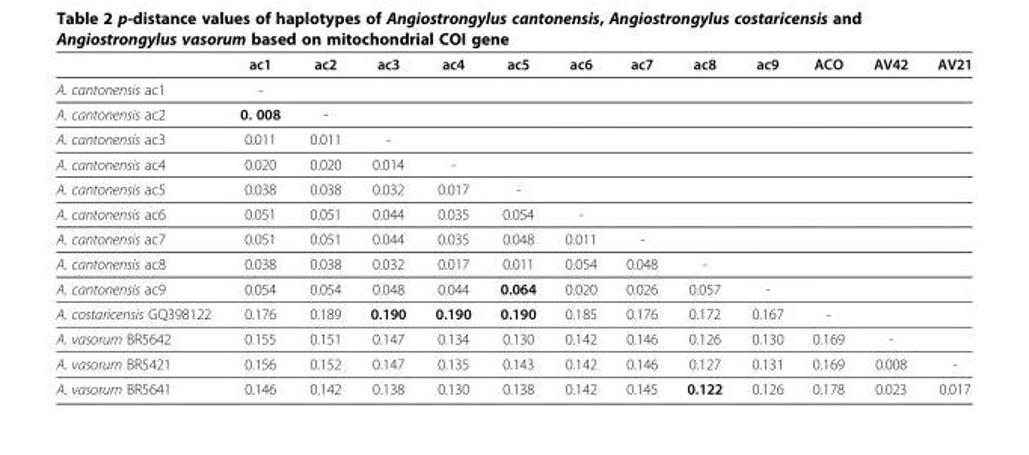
<table><thead><tr><td></td><td>ac1</td><td>ac2</td><td>ac3</td><td>ac4</td><td>ac5</td><td>ac6</td><td>ac7</td><td>ac8</td><td>ac9</td><td>ACO</td><td>AV42</td><td>AV21</td></tr></thead><tbody><tr><td>A. cantonensis ac1</td><td>-</td><td></td><td></td><td></td><td></td><td></td><td></td><td></td><td></td><td></td><td></td><td></td></tr><tr><td>A. cantonensis ac2</td><td>0. 008</td><td>-</td><td></td><td></td><td></td><td></td><td></td><td></td><td></td><td></td><td></td><td></td></tr><tr><td>A. cantonensis ac3</td><td>0.011</td><td>0.011</td><td>-</td><td></td><td></td><td></td><td></td><td></td><td></td><td></td><td></td><td></td></tr><tr><td>A. cantonensis ac4</td><td>0.020</td><td>0.020</td><td>0.014</td><td>-</td><td></td><td></td><td></td><td></td><td></td><td></td><td></td><td></td></tr><tr><td>A. cantonensis ac5</td><td>0.038</td><td>0.038</td><td>0.032</td><td>0.017</td><td>-</td><td></td><td></td><td></td><td></td><td></td><td></td><td></td></tr><tr><td>A. cantonensis ac6</td><td>0.051</td><td>0.051</td><td>0.044</td><td>0.035</td><td>0.054</td><td>-</td><td></td><td></td><td></td><td></td><td></td><td></td></tr><tr><td>A. cantonensis ac7</td><td>0.051</td><td>0.051</td><td>0.044</td><td>0.035</td><td>0.048</td><td>0.011</td><td>-</td><td></td><td></td><td></td><td></td><td></td></tr><tr><td>A. cantonensis ac8</td><td>0.038</td><td>0.038</td><td>0.032</td><td>0.017</td><td>0.011</td><td>0.054</td><td>0.048</td><td>-</td><td></td><td></td><td></td><td></td></tr><tr><td>A. cantonensis ac9</td><td>0.054</td><td>0.054</td><td>0.048</td><td>0.044</td><td>0.064</td><td>0.020</td><td>0.026</td><td>0.057</td><td>-</td><td></td><td></td><td></td></tr><tr><td>A. costaricensis GQ398122</td><td>0.176</td><td>0.189</td><td>0.190</td><td>0.190</td><td>0.190</td><td>0.185</td><td>0.176</td><td>0.172</td><td>0.167</td><td>-</td><td></td><td></td></tr><tr><td>A. vasorum BR5642</td><td>0.155</td><td>0.151</td><td>0.147</td><td>0.134</td><td>0.130</td><td>0.142</td><td>0.146</td><td>0.126</td><td>0.130</td><td>0.169</td><td>-</td><td></td></tr><tr><td>A. vasorum BR5421</td><td>0.156</td><td>0.152</td><td>0.147</td><td>0.135</td><td>0.143</td><td>0.142</td><td>0.146</td><td>0.127</td><td>0.131</td><td>0.169</td><td>0.008</td><td>-</td></tr><tr><td>A. vasorum BR5641</td><td>0.146</td><td>0.142</td><td>0.138</td><td>0.130</td><td>0.138</td><td>0.142</td><td>0.145</td><td>0.122</td><td>0.126</td><td>0.178</td><td>0.023</td><td>0.017</td></tr></tbody></table>